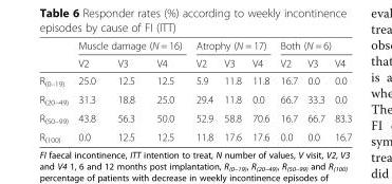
<table><thead><tr><td rowspan="2"></td><td colspan="3">Muscle damage (N = 16)</td><td colspan="3">Atrophy (N = 17)</td><td colspan="3">Both (N = 6)</td></tr><tr><td>V2</td><td>V3</td><td>V4</td><td>V2</td><td>V3</td><td>V4</td><td>V2</td><td>V3</td><td>V4</td></tr></thead><tbody><tr><td>R<sub>(0–19)</sub></td><td>25.0</td><td>12.5</td><td>12.5</td><td>5.9</td><td>11.8</td><td>11.8</td><td>16.7</td><td>0.0</td><td>0.0</td></tr><tr><td>R<sub>(20–49)</sub></td><td>31.3</td><td>18.8</td><td>25.0</td><td>29.4</td><td>11.8</td><td>0.0</td><td>66.7</td><td>33.3</td><td>0.0</td></tr><tr><td>R<sub>(50–99)</sub></td><td>43.8</td><td>56.3</td><td>50.0</td><td>52.9</td><td>58.8</td><td>70.6</td><td>16.7</td><td>66.7</td><td>83.3</td></tr><tr><td>R<sub>(100)</sub></td><td>0.0</td><td>12.5</td><td>12.5</td><td>11.8</td><td>17.6</td><td>17.6</td><td>0.0</td><td>0.0</td><td>16.7</td></tr></tbody></table>